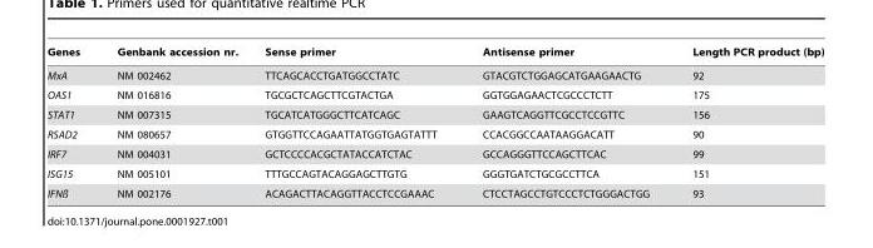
<table><thead><tr><td>Genes</td><td>Genbank accession nr.</td><td>Sense primer</td><td>Antisense primer</td><td>Length PCR product (bp)</td></tr></thead><tbody><tr><td>MxA</td><td>NM 002462</td><td>TTCAGCACCTGATGGCCTATC</td><td>GTACGTCTGGAGCATGAAGAACTG</td><td>92</td></tr><tr><td>OAS1</td><td>NM 016816</td><td>TGCGCTCAGCTTCGTACTGA</td><td>GGTGGAGAACTCGCCCTCTT</td><td>175</td></tr><tr><td>STAT1</td><td>NM 007315</td><td>TGCATCATGGGCTTCATCAGC</td><td>GAAGTCAGGTTCGCCTCCGTTC</td><td>156</td></tr><tr><td>RSAD2</td><td>NM 080657</td><td>GTGGTTCCAGAATTATGGTGAGTATTT</td><td>CCACGGCCAATAAGGACATT</td><td>90</td></tr><tr><td>IRF7</td><td>NM 004031</td><td>GCTCCCCACGCTATACCATCTAC</td><td>GCCAGGGTTCCAGCTTCAC</td><td>99</td></tr><tr><td>ISG15</td><td>NM 005101</td><td>TTTGCCAGTACAGGAGCTTGTG</td><td>GGGTGATCTGCGCCTTCA</td><td>151</td></tr><tr><td>IFNß</td><td>NM 002176</td><td>ACAGACTTACAGGTTACCTCCGAAAC</td><td>CTCCTAGCCTGTCCCTCTGGGACTGG</td><td>93</td></tr></tbody></table>